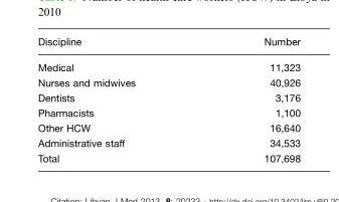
<table><thead><tr><td>Discipline</td><td>Number</td></tr></thead><tbody><tr><td>Medical</td><td>11,323</td></tr><tr><td>Nurses and midwives</td><td>40,926</td></tr><tr><td>Dentists</td><td>3,176</td></tr><tr><td>Pharmacists</td><td>1,100</td></tr><tr><td>Other HCW</td><td>16,640</td></tr><tr><td>Administrative staff</td><td>34,533</td></tr><tr><td>Total</td><td>107,698</td></tr></tbody></table>